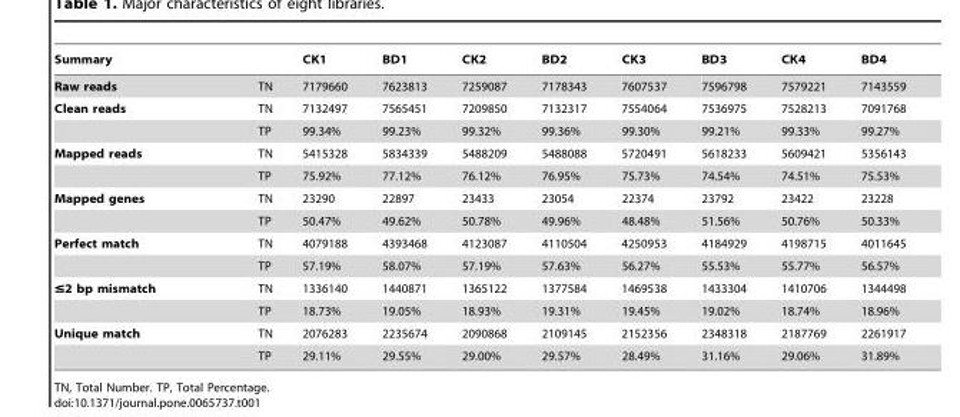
<table><thead><tr><td>Summary</td><td></td><td>CK1</td><td>BD1</td><td>CK2</td><td>BD2</td><td>CK3</td><td>BD3</td><td>CK4</td><td>BD4</td></tr></thead><tbody><tr><td>Raw reads</td><td>TN</td><td>7179660</td><td>7623813</td><td>7259087</td><td>7178343</td><td>7607537</td><td>7596798</td><td>7579221</td><td>7143559</td></tr><tr><td rowspan="2">Clean reads</td><td>TN</td><td>7132497</td><td>7565451</td><td>7209850</td><td>7132317</td><td>7554064</td><td>7536975</td><td>7528213</td><td>7091768</td></tr><tr><td>TP</td><td>99.34%</td><td>99.23%</td><td>99.32%</td><td>99.36%</td><td>99.30%</td><td>99.21%</td><td>99.33%</td><td>99.27%</td></tr><tr><td rowspan="2">Mapped reads</td><td>TN</td><td>5415328</td><td>5834339</td><td>5488209</td><td>5488088</td><td>5720491</td><td>5618233</td><td>5609421</td><td>5356143</td></tr><tr><td>TP</td><td>75.92%</td><td>77.12%</td><td>76.12%</td><td>76.95%</td><td>75.73%</td><td>74.54%</td><td>74.51%</td><td>75.53%</td></tr><tr><td rowspan="2">Mapped genes</td><td>TN</td><td>23290</td><td>22897</td><td>23433</td><td>23054</td><td>22374</td><td>23792</td><td>23422</td><td>23228</td></tr><tr><td>TP</td><td>50.47%</td><td>49.62%</td><td>50.78%</td><td>49.96%</td><td>48.48%</td><td>51.56%</td><td>50.76%</td><td>50.33%</td></tr><tr><td rowspan="2">Perfect match</td><td>TN</td><td>4079188</td><td>4393468</td><td>4123087</td><td>4110504</td><td>4250953</td><td>4184929</td><td>4198715</td><td>4011645</td></tr><tr><td>TP</td><td>57.19%</td><td>58.07%</td><td>57.19%</td><td>57.63%</td><td>56.27%</td><td>55.53%</td><td>55.77%</td><td>56.57%</td></tr><tr><td rowspan="2">≤2 bp mismatch</td><td>TN</td><td>1336140</td><td>1440871</td><td>1365122</td><td>1377584</td><td>1469538</td><td>1433304</td><td>1410706</td><td>1344498</td></tr><tr><td>TP</td><td>18.73%</td><td>19.05%</td><td>18.93%</td><td>19.31%</td><td>19.45%</td><td>19.02%</td><td>18.74%</td><td>18.96%</td></tr><tr><td rowspan="2">Unique match</td><td>TN</td><td>2076283</td><td>2235674</td><td>2090868</td><td>2109145</td><td>2152356</td><td>2348318</td><td>2187769</td><td>2261917</td></tr><tr><td>TP</td><td>29.11%</td><td>29.55%</td><td>29.00%</td><td>29.57%</td><td>28.49%</td><td>31.16%</td><td>29.06%</td><td>31.89%</td></tr></tbody></table>